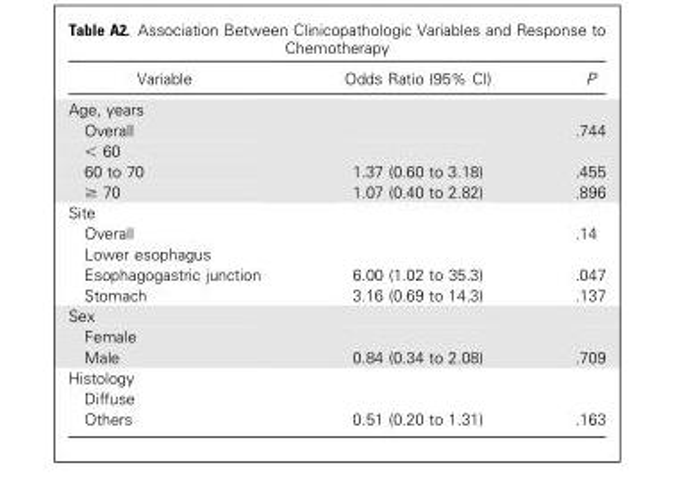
<table><thead><tr><td>Variable</td><td>Odds Ratio (95% CI)</td><td>P</td></tr></thead><tbody><tr><td colspan="3">Age, years</td></tr><tr><td>Overall</td><td></td><td>.744</td></tr><tr><td colspan="3">&lt; 60</td></tr><tr><td>60 to 70</td><td>1.37 (0.60 to 3.18)</td><td>.455</td></tr><tr><td>≥ 70</td><td>1.07 (0.40 to 2.82)</td><td>.896</td></tr><tr><td colspan="3">Site</td></tr><tr><td>Overall</td><td></td><td>.14</td></tr><tr><td colspan="3">Lower esophagus</td></tr><tr><td>Esophagogastric junction</td><td>6.00 (1.02 to 35.3)</td><td>.047</td></tr><tr><td>Stomach</td><td>3.16 (0.69 to 14.3)</td><td>.137</td></tr><tr><td colspan="3">Sex</td></tr><tr><td colspan="3">Female</td></tr><tr><td>Male</td><td>0.84 (0.34 to 2.08)</td><td>.709</td></tr><tr><td colspan="3">Histology</td></tr><tr><td colspan="3">Diffuse</td></tr><tr><td>Others</td><td>0.51 (0.20 to 1.31)</td><td>.163</td></tr></tbody></table>